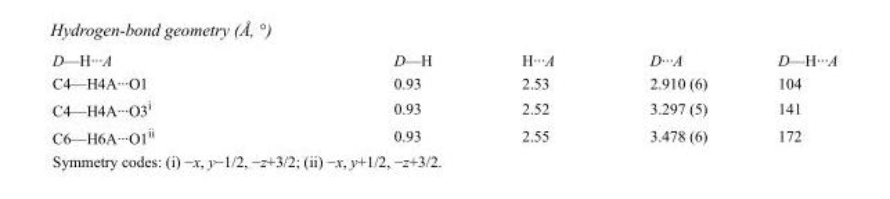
<table><tbody><tr><td>D—H···A</td><td>D—H</td><td>H···A</td><td>D···A</td><td>D—H···A</td></tr><tr><td>C4—H4A···O1</td><td>0.93</td><td>2.53</td><td>2.910 (6)</td><td>104</td></tr><tr><td>C4—H4A···O3<sup>i</sup></td><td>0.93</td><td>2.52</td><td>3.297 (5)</td><td>141</td></tr><tr><td>C6—H6A···O1<sup>ii</sup></td><td>0.93</td><td>2.55</td><td>3.478 (6)</td><td>172</td></tr></tbody></table>